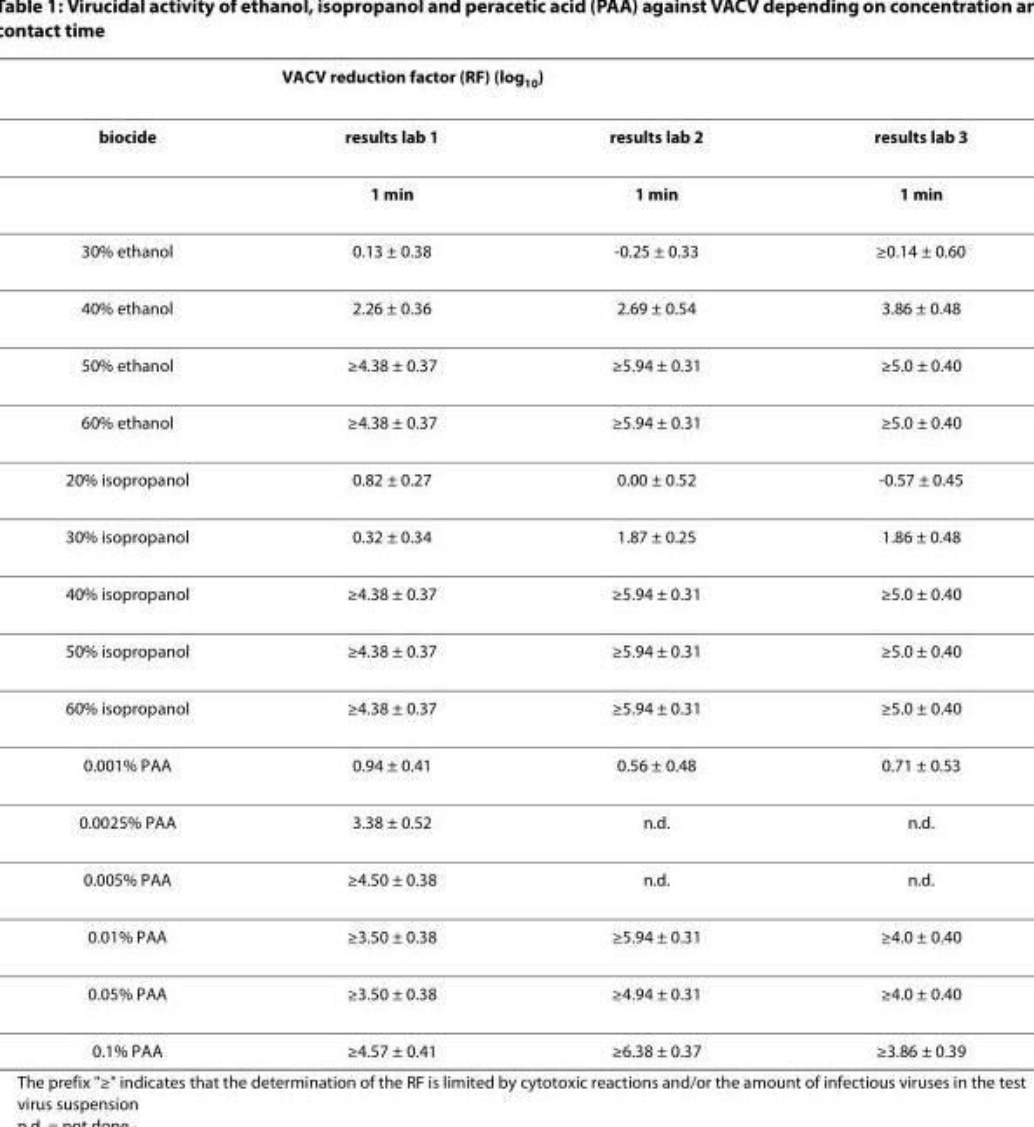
<table><thead><tr><td rowspan="2">biocide</td><td colspan="3">VACV reduction factor (RF) (log<sub>10</sub>)</td></tr><tr><td>results lab 1</td><td>results lab 2</td><td>results lab 3</td></tr></thead><tbody><tr><td></td><td>1 min</td><td>1 min</td><td>1 min</td></tr><tr><td>30% ethanol</td><td>0.13 ± 0.38</td><td>-0.25 ± 0.33</td><td>≥0.14 ± 0.60</td></tr><tr><td>40% ethanol</td><td>2.26 ± 0.36</td><td>2.69 ± 0.54</td><td>3.86 ± 0.48</td></tr><tr><td>50% ethanol</td><td>≥4.38 ± 0.37</td><td>≥5.94 ± 0.31</td><td>≥5.0 ± 0.40</td></tr><tr><td>60% ethanol</td><td>≥4.38 ± 0.37</td><td>≥5.94 ± 0.31</td><td>≥5.0 ± 0.40</td></tr><tr><td>20% isopropanol</td><td>0.82 ± 0.27</td><td>0.00 ± 0.52</td><td>-0.57 ± 0.45</td></tr><tr><td>30% isopropanol</td><td>0.32 ± 0.34</td><td>1.87 ± 0.25</td><td>1.86 ± 0.48</td></tr><tr><td>40% isopropanol</td><td>≥4.38 ± 0.37</td><td>≥5.94 ± 0.31</td><td>≥5.0 ± 0.40</td></tr><tr><td>50% isopropanol</td><td>≥4.38 ± 0.37</td><td>≥5.94 ± 0.31</td><td>≥5.0 ± 0.40</td></tr><tr><td>60% isopropanol</td><td>≥4.38 ± 0.37</td><td>≥5.94 ± 0.31</td><td>≥5.0 ± 0.40</td></tr><tr><td>0.001% PAA</td><td>0.94 ± 0.41</td><td>0.56 ± 0.48</td><td>0.71 ± 0.53</td></tr><tr><td>0.0025% PAA</td><td>3.38 ± 0.52</td><td>n.d.</td><td>n.d.</td></tr><tr><td>0.005% PAA</td><td>≥4.50 ± 0.38</td><td>n.d.</td><td>n.d.</td></tr><tr><td>0.01% PAA</td><td>≥3.50 ± 0.38</td><td>≥5.94 ± 0.31</td><td>≥4.0 ± 0.40</td></tr><tr><td>0.05% PAA</td><td>≥3.50 ± 0.38</td><td>≥4.94 ± 0.31</td><td>≥4.0 ± 0.40</td></tr><tr><td>0.1% PAA</td><td>≥4.57 ± 0.41</td><td>≥6.38 ± 0.37</td><td>≥3.86 ± 0.39</td></tr></tbody></table>